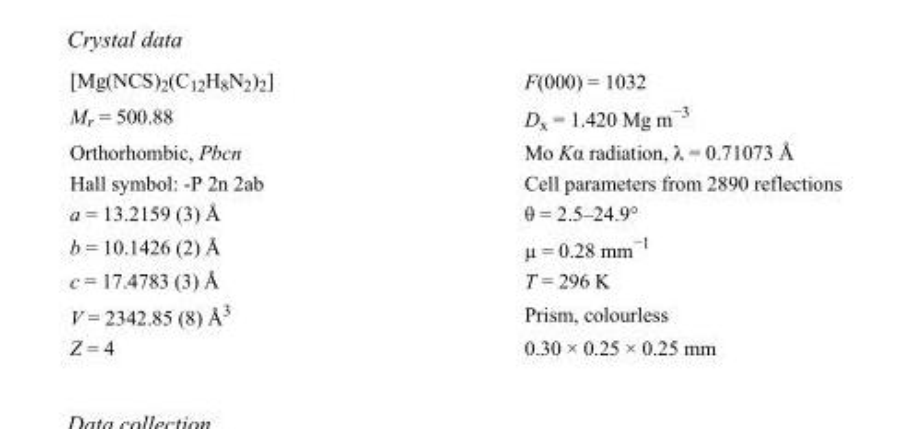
<table><tbody><tr><td>[Mg(NCS)<sub>2</sub>(C<sub>12</sub>H<sub>8</sub>N<sub>2</sub>)<sub>2</sub>]</td><td>F(000) = 1032</td></tr><tr><td>M<sub>r</sub> = 500.88</td><td>D<sub>x</sub> = 1.420 Mg m<sup>−3</sup></td></tr><tr><td>Orthorhombic, Pbcn</td><td>Mo Kα radiation, λ = 0.71073 Å</td></tr><tr><td>Hall symbol: -P 2n 2ab</td><td>Cell parameters from 2890 reflections</td></tr><tr><td>a = 13.2159 (3) Å</td><td>θ = 2.5–24.9°</td></tr><tr><td>b = 10.1426 (2) Å</td><td>µ = 0.28 mm<sup>−1</sup></td></tr><tr><td>c = 17.4783 (3) Å</td><td>T = 296 K</td></tr><tr><td>V = 2342.85 (8) Å<sup>3</sup></td><td>Prism, colourless</td></tr><tr><td>Z = 4</td><td>0.30 × 0.25 × 0.25 mm</td></tr></tbody></table>